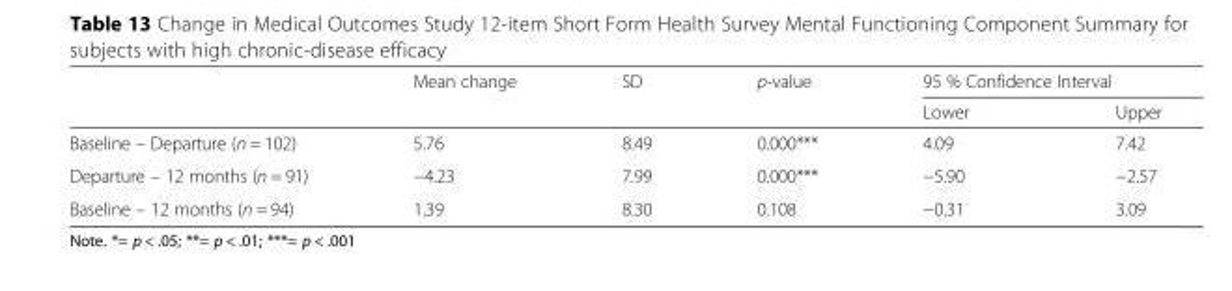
<table><thead><tr><td rowspan="2"></td><td rowspan="2">Mean change</td><td rowspan="2">SD</td><td rowspan="2">p-value</td><td colspan="2">95 % Confidence Interval</td></tr><tr><td>Lower</td><td>Upper</td></tr></thead><tbody><tr><td>Baseline – Departure (n = 102)</td><td>5.76</td><td>8.49</td><td>0.000***</td><td>4.09</td><td>7.42</td></tr><tr><td>Departure – 12 months (n = 91)</td><td>−4.23</td><td>7.99</td><td>0.000***</td><td>−5.90</td><td>−2.57</td></tr><tr><td>Baseline – 12 months (n = 94)</td><td>1.39</td><td>8.30</td><td>0.108</td><td>−0.31</td><td>3.09</td></tr></tbody></table>